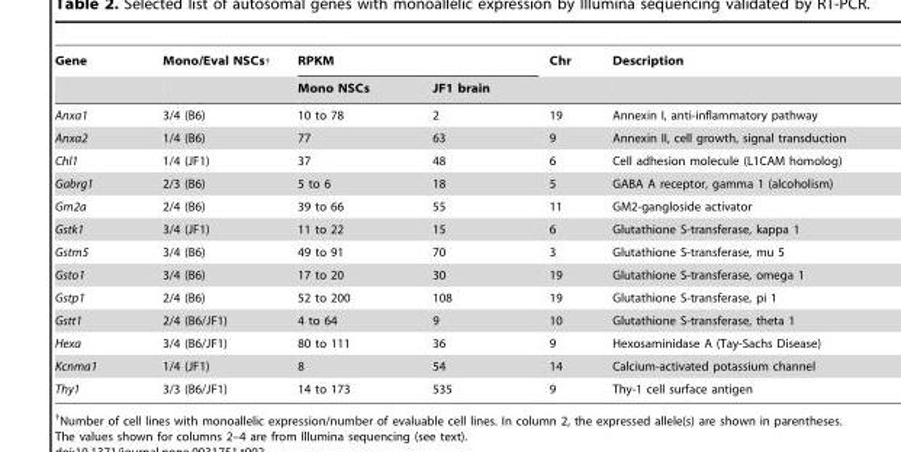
<table><thead><tr><td rowspan="2">Gene</td><td rowspan="2">Mono/Eval NSCs†</td><td colspan="2">RPKM</td><td rowspan="2">Chr</td><td rowspan="2">Description</td></tr><tr><td>Mono NSCs</td><td>JF1 brain</td></tr></thead><tbody><tr><td>Anxa1</td><td>3/4 (B6)</td><td>10 to 78</td><td>2</td><td>19</td><td>Annexin I, anti-inflammatory pathway</td></tr><tr><td>Anxa2</td><td>1/4 (B6)</td><td>77</td><td>63</td><td>9</td><td>Annexin II, cell growth, signal transduction</td></tr><tr><td>Chl1</td><td>1/4 (JF1)</td><td>37</td><td>48</td><td>6</td><td>Cell adhesion molecule (L1CAM homolog)</td></tr><tr><td>Gabrg1</td><td>2/3 (B6)</td><td>5 to 6</td><td>18</td><td>5</td><td>GABA A receptor, gamma 1 (alcoholism)</td></tr><tr><td>Gm2a</td><td>2/4 (B6)</td><td>39 to 66</td><td>55</td><td>11</td><td>GM2-gangloside activator</td></tr><tr><td>Gstk1</td><td>3/4 (JF1)</td><td>11 to 22</td><td>15</td><td>6</td><td>Glutathione S-transferase, kappa 1</td></tr><tr><td>Gstm5</td><td>3/4 (B6)</td><td>49 to 91</td><td>70</td><td>3</td><td>Glutathione S-transferase, mu 5</td></tr><tr><td>Gsto1</td><td>3/4 (B6)</td><td>17 to 20</td><td>30</td><td>19</td><td>Glutathione S-transferase, omega 1</td></tr><tr><td>Gstp1</td><td>2/4 (B6)</td><td>52 to 200</td><td>108</td><td>19</td><td>Glutathione S-transferase, pi 1</td></tr><tr><td>Gstt1</td><td>2/4 (B6/JF1)</td><td>4 to 64</td><td>9</td><td>10</td><td>Glutathione S-transferase, theta 1</td></tr><tr><td>Hexa</td><td>3/4 (B6/JF1)</td><td>80 to 111</td><td>36</td><td>9</td><td>Hexosaminidase A (Tay-Sachs Disease)</td></tr><tr><td>Kcnma1</td><td>1/4 (JF1)</td><td>8</td><td>54</td><td>14</td><td>Calcium-activated potassium channel</td></tr><tr><td>Thy1</td><td>3/3 (B6/JF1)</td><td>14 to 173</td><td>535</td><td>9</td><td>Thy-1 cell surface antigen</td></tr></tbody></table>